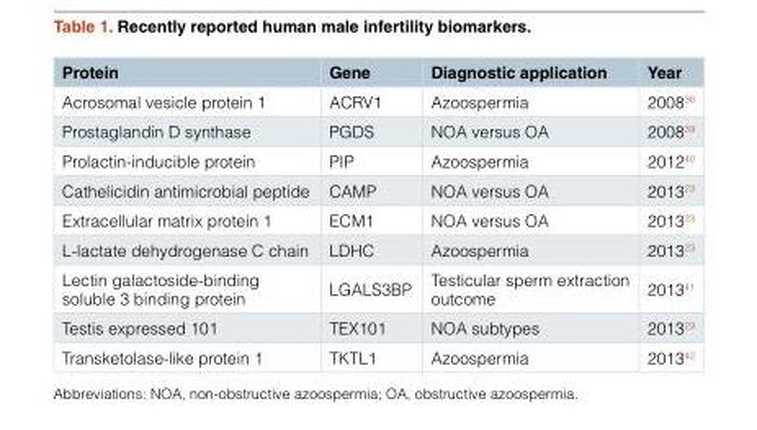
<table><thead><tr><td>Protein</td><td>Gene</td><td>Diagnostic application</td><td>Year</td></tr></thead><tbody><tr><td>Acrosomal vesicle protein 1</td><td>ACRV1</td><td>Azoospermia</td><td>2008<sup>38</sup></td></tr><tr><td>Prostaglandin D synthase</td><td>PGDS</td><td>NOA versus OA</td><td>2008<sup>39</sup></td></tr><tr><td>Prolactin-inducible protein</td><td>PIP</td><td>Azoospermia</td><td>2012<sup>40</sup></td></tr><tr><td>Cathelicidin antimicrobial peptide</td><td>CAMP</td><td>NOA versus OA</td><td>2013<sup>23</sup></td></tr><tr><td>Extracellular matrix protein 1</td><td>ECM1</td><td>NOA versus OA</td><td>2013<sup>23</sup></td></tr><tr><td>L-lactate dehydrogenase C chain</td><td>LDHC</td><td>Azoospermia</td><td>2013<sup>23</sup></td></tr><tr><td>Lectin galactoside-binding soluble 3 binding protein</td><td>LGALS3BP</td><td>Testicular sperm extraction outcome</td><td>2013<sup>41</sup></td></tr><tr><td>Testis expressed 101</td><td>TEX101</td><td>NOA subtypes</td><td>2013<sup>23</sup></td></tr><tr><td>Transketolase-like protein 1</td><td>TKTL1</td><td>Azoospermia</td><td>2013<sup>42</sup></td></tr></tbody></table>